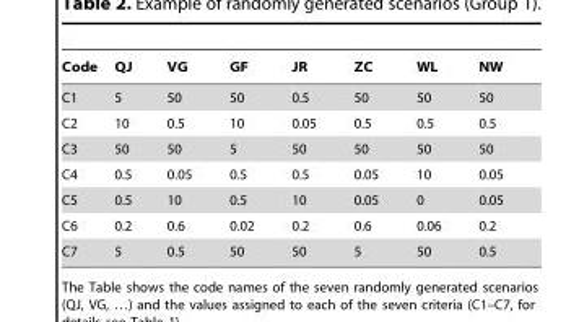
<table><thead><tr><td>Code</td><td>QJ</td><td>VG</td><td>GF</td><td>JR</td><td>ZC</td><td>WL</td><td>NW</td></tr></thead><tbody><tr><td>C1</td><td>5</td><td>50</td><td>50</td><td>0.5</td><td>50</td><td>50</td><td>50</td></tr><tr><td>C2</td><td>10</td><td>0.5</td><td>10</td><td>0.05</td><td>0.5</td><td>0.5</td><td>0.5</td></tr><tr><td>C3</td><td>50</td><td>50</td><td>5</td><td>50</td><td>50</td><td>50</td><td>50</td></tr><tr><td>C4</td><td>0.5</td><td>0.05</td><td>0.5</td><td>0.5</td><td>0.05</td><td>10</td><td>0.05</td></tr><tr><td>C5</td><td>0.5</td><td>10</td><td>0.5</td><td>10</td><td>0.05</td><td>0</td><td>0.05</td></tr><tr><td>C6</td><td>0.2</td><td>0.6</td><td>0.02</td><td>0.2</td><td>0.6</td><td>0.06</td><td>0.2</td></tr><tr><td>C7</td><td>5</td><td>0.5</td><td>50</td><td>50</td><td>5</td><td>50</td><td>0.5</td></tr></tbody></table>